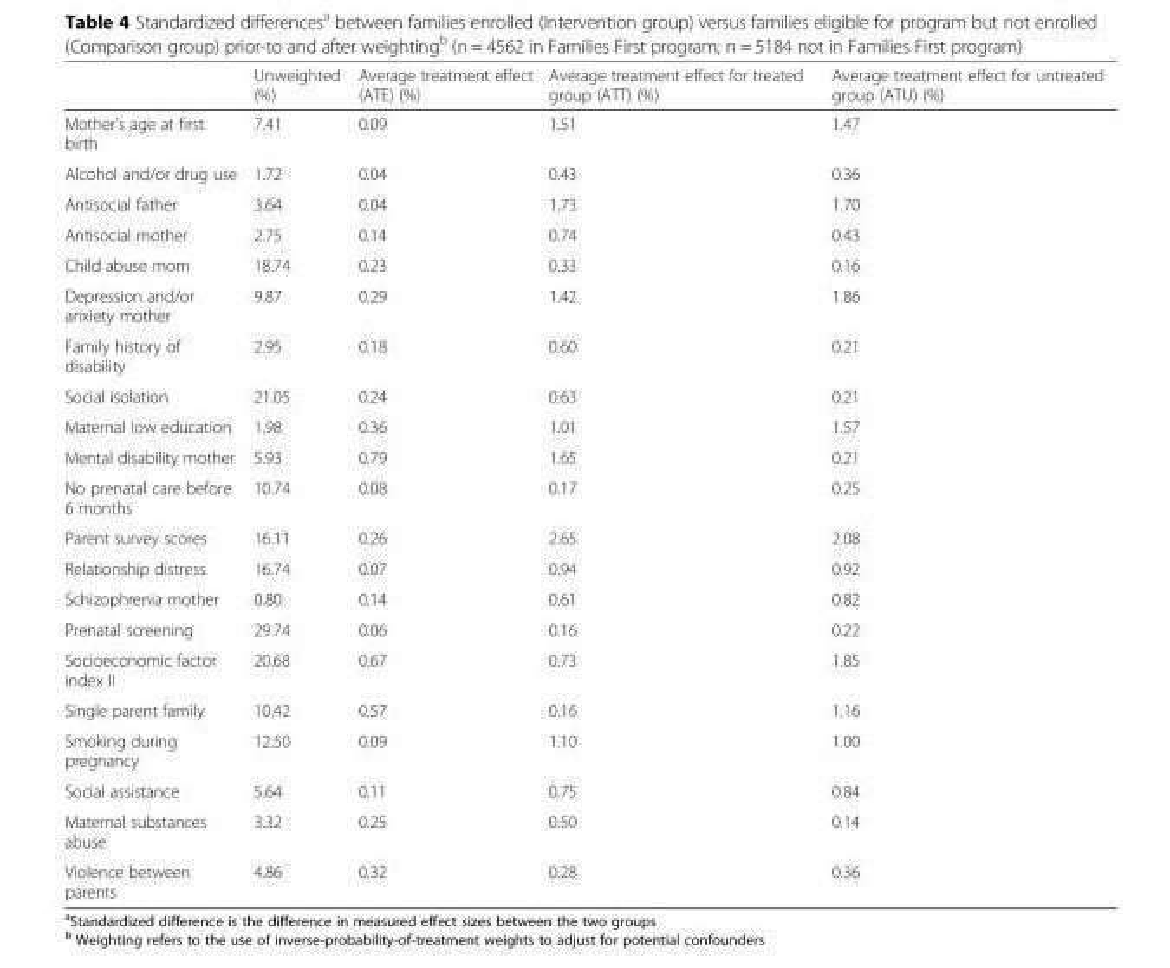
<table><thead><tr><td></td><td>Unweighted (%)</td><td>Average treatment effect (ATE) (%)</td><td>Average treatment effect for treated group (ATT) (%)</td><td>Average treatment effect for untreated group (ATU) (%)</td></tr></thead><tbody><tr><td>Mother’s age at first birth</td><td>7.41</td><td>0.09</td><td>1.51</td><td>1.47</td></tr><tr><td>Alcohol and/or drug use</td><td>1.72</td><td>0.04</td><td>0.43</td><td>0.36</td></tr><tr><td>Antisocial father</td><td>3.64</td><td>0.04</td><td>1.73</td><td>1.70</td></tr><tr><td>Antisocial mother</td><td>2.75</td><td>0.14</td><td>0.74</td><td>0.43</td></tr><tr><td>Child abuse mom</td><td>18.74</td><td>0.23</td><td>0.33</td><td>0.16</td></tr><tr><td>Depression and/or anxiety mother</td><td>9.87</td><td>0.29</td><td>1.42</td><td>1.86</td></tr><tr><td>Family history of disability</td><td>2.95</td><td>0.18</td><td>0.60</td><td>0.21</td></tr><tr><td>Social isolation</td><td>21.05</td><td>0.24</td><td>0.63</td><td>0.21</td></tr><tr><td>Maternal low education</td><td>1.98</td><td>0.36</td><td>1.01</td><td>1.57</td></tr><tr><td>Mental disability mother</td><td>5.93</td><td>0.79</td><td>1.65</td><td>0.21</td></tr><tr><td>No prenatal care before 6 months</td><td>10.74</td><td>0.08</td><td>0.17</td><td>0.25</td></tr><tr><td>Parent survey scores</td><td>16.11</td><td>0.26</td><td>2.65</td><td>2.08</td></tr><tr><td>Relationship distress</td><td>16.74</td><td>0.07</td><td>0.94</td><td>0.92</td></tr><tr><td>Schizophrenia mother</td><td>0.80</td><td>0.14</td><td>0.61</td><td>0.82</td></tr><tr><td>Prenatal screening</td><td>29.74</td><td>0.06</td><td>0.16</td><td>0.22</td></tr><tr><td>Socioeconomic factor index II</td><td>20.68</td><td>0.67</td><td>0.73</td><td>1.85</td></tr><tr><td>Single parent family</td><td>10.42</td><td>0.57</td><td>0.16</td><td>1.16</td></tr><tr><td>Smoking during pregnancy</td><td>12.50</td><td>0.09</td><td>1.10</td><td>1.00</td></tr><tr><td>Social assistance</td><td>5.64</td><td>0.11</td><td>0.75</td><td>0.84</td></tr><tr><td>Maternal substances abuse</td><td>3.32</td><td>0.25</td><td>0.50</td><td>0.14</td></tr><tr><td>Violence between parents</td><td>4.86</td><td>0.32</td><td>0.28</td><td>0.36</td></tr></tbody></table>